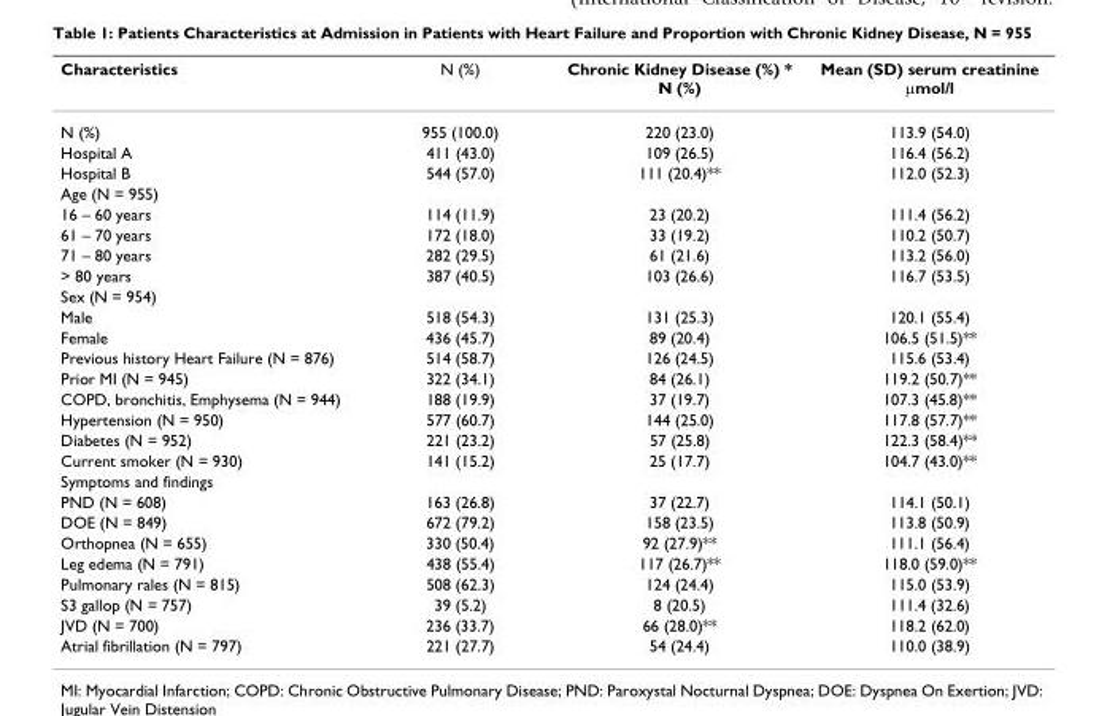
<table><thead><tr><td>Characteristics</td><td>N (%)</td><td>Chronic Kidney Disease (%) * N (%)</td><td>Mean (SD) serum creatinine µmol/l</td></tr></thead><tbody><tr><td>N (%)</td><td>955 (100.0)</td><td>220 (23.0)</td><td>113.9 (54.0)</td></tr><tr><td>Hospital A</td><td>411 (43.0)</td><td>109 (26.5)</td><td>116.4 (56.2)</td></tr><tr><td>Hospital B</td><td>544 (57.0)</td><td>111 (20.4)**</td><td>112.0 (52.3)</td></tr><tr><td colspan="4">Age (N = 955)</td></tr><tr><td>16 – 60 years</td><td>114 (11.9)</td><td>23 (20.2)</td><td>111.4 (56.2)</td></tr><tr><td>61 – 70 years</td><td>172 (18.0)</td><td>33 (19.2)</td><td>110.2 (50.7)</td></tr><tr><td>71 – 80 years</td><td>282 (29.5)</td><td>61 (21.6)</td><td>113.2 (56.0)</td></tr><tr><td>&gt; 80 years</td><td>387 (40.5)</td><td>103 (26.6)</td><td>116.7 (53.5)</td></tr><tr><td colspan="4">Sex (N = 954)</td></tr><tr><td>Male</td><td>518 (54.3)</td><td>131 (25.3)</td><td>120.1 (55.4)</td></tr><tr><td>Female</td><td>436 (45.7)</td><td>89 (20.4)</td><td>106.5 (51.5)**</td></tr><tr><td>Previous history Heart Failure (N = 876)</td><td>514 (58.7)</td><td>126 (24.5)</td><td>115.6 (53.4)</td></tr><tr><td>Prior MI (N = 945)</td><td>322 (34.1)</td><td>84 (26.1)</td><td>119.2 (50.7)**</td></tr><tr><td>COPD, bronchitis, Emphysema (N = 944)</td><td>188 (19.9)</td><td>37 (19.7)</td><td>107.3 (45.8)**</td></tr><tr><td>Hypertension (N = 950)</td><td>577 (60.7)</td><td>144 (25.0)</td><td>117.8 (57.7)**</td></tr><tr><td>Diabetes (N = 952)</td><td>221 (23.2)</td><td>57 (25.8)</td><td>122.3 (58.4)**</td></tr><tr><td>Current smoker (N = 930)</td><td>141 (15.2)</td><td>25 (17.7)</td><td>104.7 (43.0)**</td></tr><tr><td colspan="4">Symptoms and findings</td></tr><tr><td>PND (N = 608)</td><td>163 (26.8)</td><td>37 (22.7)</td><td>114.1 (50.1)</td></tr><tr><td>DOE (N = 849)</td><td>672 (79.2)</td><td>158 (23.5)</td><td>113.8 (50.9)</td></tr><tr><td>Orthopnea (N = 655)</td><td>330 (50.4)</td><td>92 (27.9)**</td><td>111.1 (56.4)</td></tr><tr><td>Leg edema (N = 791)</td><td>438 (55.4)</td><td>117 (26.7)**</td><td>118.0 (59.0)**</td></tr><tr><td>Pulmonary rales (N = 815)</td><td>508 (62.3)</td><td>124 (24.4)</td><td>115.0 (53.9)</td></tr><tr><td>S3 gallop (N = 757)</td><td>39 (5.2)</td><td>8 (20.5)</td><td>111.4 (32.6)</td></tr><tr><td>JVD (N = 700)</td><td>236 (33.7)</td><td>66 (28.0)**</td><td>118.2 (62.0)</td></tr><tr><td>Atrial fibrillation (N = 797)</td><td>221 (27.7)</td><td>54 (24.4)</td><td>110.0 (38.9)</td></tr></tbody></table>